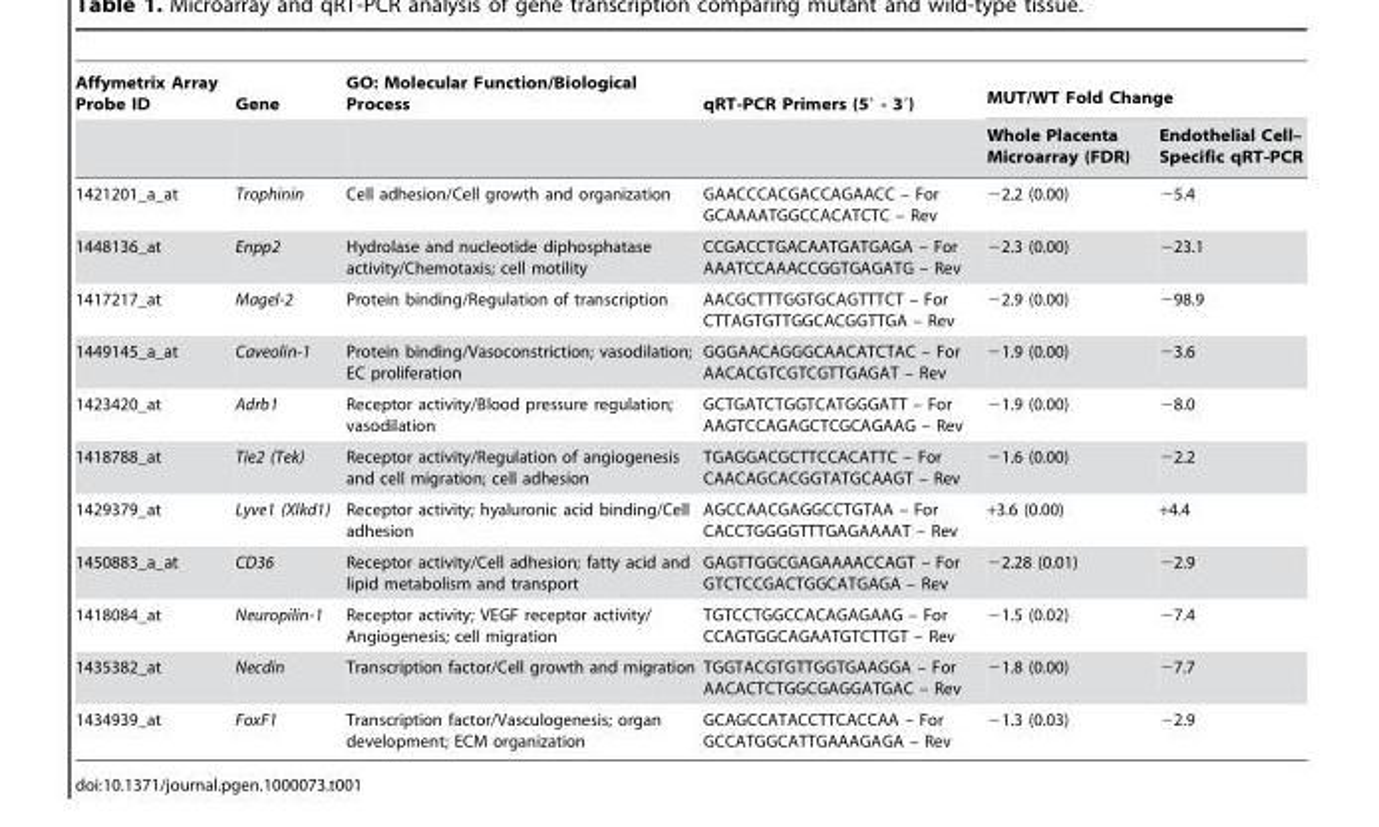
<table><thead><tr><td rowspan="2">Affymetrix Array Probe ID</td><td rowspan="2">Gene</td><td rowspan="2">GO: Molecular Function/Biological Process</td><td rowspan="2">qRT-PCR Primers (5′ - 3′)</td><td colspan="2">MUT/WT Fold Change</td></tr><tr><td>Whole Placenta Microarray (FDR)</td><td>Endothelial Cell– Specific qRT-PCR</td></tr></thead><tbody><tr><td>1421201_a_at</td><td>Trophinin</td><td>Cell adhesion/Cell growth and organization</td><td>GAACCCACGACCAGAACC – For GCAAAATGGCCACATCTC – Rev</td><td>−2.2 (0.00)</td><td>−5.4</td></tr><tr><td>1448136_at</td><td>Enpp2</td><td>Hydrolase and nucleotide diphosphatase activity/Chemotaxis; cell motility</td><td>CCGACCTGACAATGATGAGA – For AAATCCAAACCGGTGAGATG – Rev</td><td>−2.3 (0.00)</td><td>−23.1</td></tr><tr><td>1417217_at</td><td>Magel-2</td><td>Protein binding/Regulation of transcription</td><td>AACGCTTTGGTGCAGTTTCT – For CTTAGTGTTGGCACGGTTGA – Rev</td><td>−2.9 (0.00)</td><td>−98.9</td></tr><tr><td>1449145_a_at</td><td>Caveolin-1</td><td>Protein binding/Vasoconstriction; vasodilation; EC proliferation</td><td>GGGAACAGGGCAACATCTAC – For AACACGTCGTCGTTGAGAT – Rev</td><td>−1.9 (0.00)</td><td>−3.6</td></tr><tr><td>1423420_at</td><td>Adrb1</td><td>Receptor activity/Blood pressure regulation; vasodilation</td><td>GCTGATCTGGTCATGGGATT – For AAGTCCAGAGCTCGCAGAAG – Rev</td><td>−1.9 (0.00)</td><td>−8.0</td></tr><tr><td>1418788_at</td><td>Tie2 (Tek)</td><td>Receptor activity/Regulation of angiogenesis and cell migration; cell adhesion</td><td>TGAGGACGCTTCCACATTC – For CAACAGCACGGTATGCAAGT – Rev</td><td>−1.6 (0.00)</td><td>−2.2</td></tr><tr><td>1429379_at</td><td>Lyve1 (Xlkd1)</td><td>Receptor activity; hyaluronic acid binding/Cell adhesion</td><td>AGCCAACGAGGCCTGTAA – For CACCTGGGGTTTGAGAAAAT – Rev</td><td>+3.6 (0.00)</td><td>+4.4</td></tr><tr><td>1450883_a_at</td><td>CD36</td><td>Receptor activity/Cell adhesion; fatty acid and lipid metabolism and transport</td><td>GAGTTGGCGAGAAAACCAGT – For GTCTCCGACTGGCATGAGA – Rev</td><td>−2.28 (0.01)</td><td>−2.9</td></tr><tr><td>1418084_at</td><td>Neuropilin-1</td><td>Receptor activity; VEGF receptor activity/ Angiogenesis; cell migration</td><td>TGTCCTGGCCACAGAGAAG – For CCAGTGGCAGAATGTCTTGT – Rev</td><td>−1.5 (0.02)</td><td>−7.4</td></tr><tr><td>1435382_at</td><td>Necdin</td><td>Transcription factor/Cell growth and migration</td><td>TGGTACGTGTTGGTGAAGGA – For AACACTCTGGCGAGGATGAC – Rev</td><td>−1.8 (0.00)</td><td>−7.7</td></tr><tr><td>1434939_at</td><td>FoxF1</td><td>Transcription factor/Vasculogenesis; organ development; ECM organization</td><td>GCAGCCATACCTTCACCAA – For GCCATGGCATTGAAAGAGA – Rev</td><td>−1.3 (0.03)</td><td>−2.9</td></tr></tbody></table>